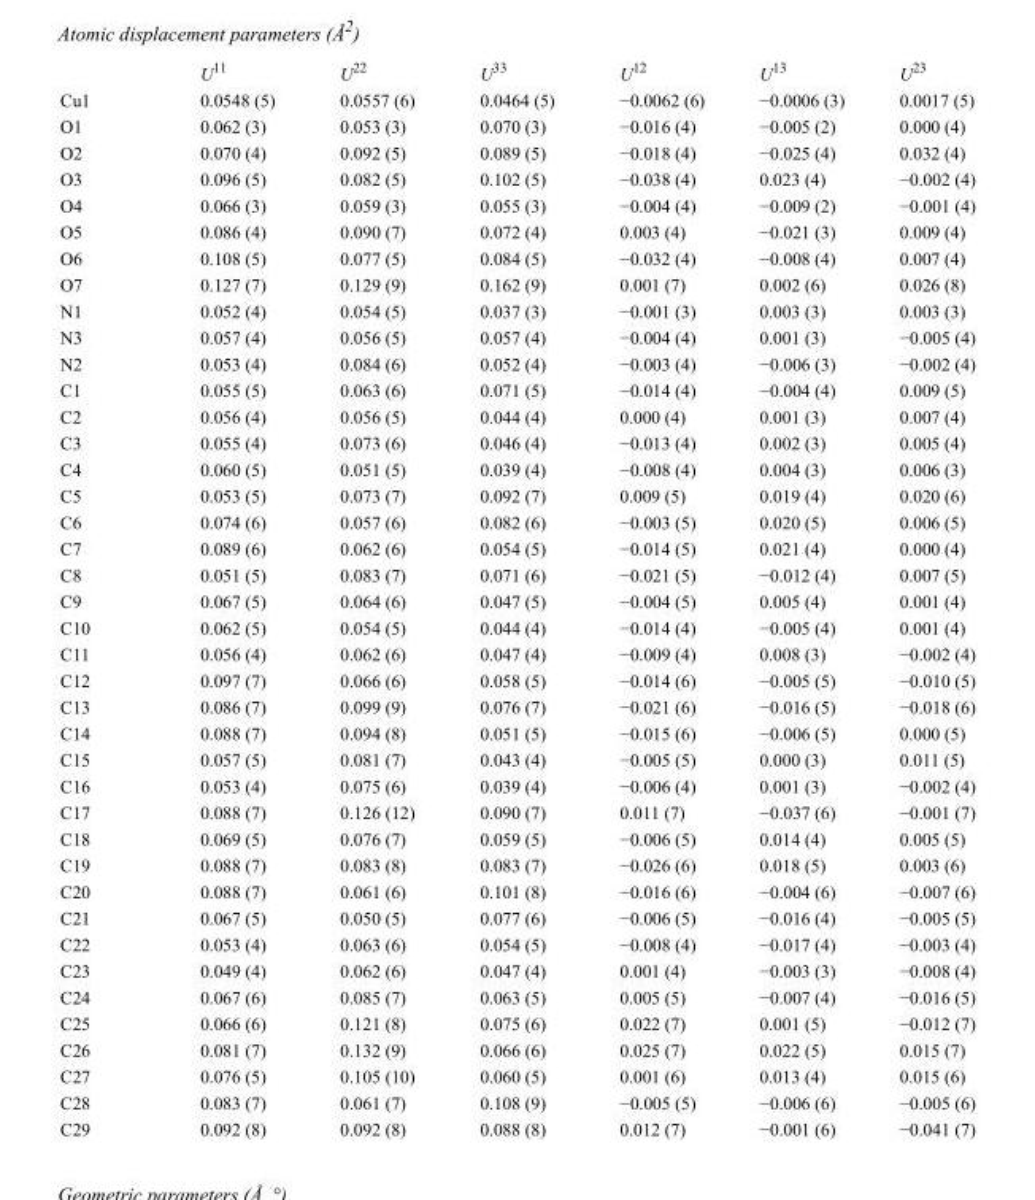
<table><thead><tr><td></td><td>U<sup>11</sup></td><td>U<sup>22</sup></td><td>U<sup>33</sup></td><td>U<sup>12</sup></td><td>U<sup>13</sup></td><td>U<sup>23</sup></td></tr></thead><tbody><tr><td>Cu1</td><td>0.0548 (5)</td><td>0.0557 (6)</td><td>0.0464 (5)</td><td>−0.0062 (6)</td><td>−0.0006 (3)</td><td>0.0017 (5)</td></tr><tr><td>O1</td><td>0.062 (3)</td><td>0.053 (3)</td><td>0.070 (3)</td><td>−0.016 (4)</td><td>−0.005 (2)</td><td>0.000 (4)</td></tr><tr><td>O2</td><td>0.070 (4)</td><td>0.092 (5)</td><td>0.089 (5)</td><td>−0.018 (4)</td><td>−0.025 (4)</td><td>0.032 (4)</td></tr><tr><td>O3</td><td>0.096 (5)</td><td>0.082 (5)</td><td>0.102 (5)</td><td>−0.038 (4)</td><td>0.023 (4)</td><td>−0.002 (4)</td></tr><tr><td>O4</td><td>0.066 (3)</td><td>0.059 (3)</td><td>0.055 (3)</td><td>−0.004 (4)</td><td>−0.009 (2)</td><td>−0.001 (4)</td></tr><tr><td>O5</td><td>0.086 (4)</td><td>0.090 (7)</td><td>0.072 (4)</td><td>0.003 (4)</td><td>−0.021 (3)</td><td>0.009 (4)</td></tr><tr><td>O6</td><td>0.108 (5)</td><td>0.077 (5)</td><td>0.084 (5)</td><td>−0.032 (4)</td><td>−0.008 (4)</td><td>0.007 (4)</td></tr><tr><td>O7</td><td>0.127 (7)</td><td>0.129 (9)</td><td>0.162 (9)</td><td>0.001 (7)</td><td>0.002 (6)</td><td>0.026 (8)</td></tr><tr><td>N1</td><td>0.052 (4)</td><td>0.054 (5)</td><td>0.037 (3)</td><td>−0.001 (3)</td><td>0.003 (3)</td><td>0.003 (3)</td></tr><tr><td>N3</td><td>0.057 (4)</td><td>0.056 (5)</td><td>0.057 (4)</td><td>−0.004 (4)</td><td>0.001 (3)</td><td>−0.005 (4)</td></tr><tr><td>N2</td><td>0.053 (4)</td><td>0.084 (6)</td><td>0.052 (4)</td><td>−0.003 (4)</td><td>−0.006 (3)</td><td>−0.002 (4)</td></tr><tr><td>C1</td><td>0.055 (5)</td><td>0.063 (6)</td><td>0.071 (5)</td><td>−0.014 (4)</td><td>−0.004 (4)</td><td>0.009 (5)</td></tr><tr><td>C2</td><td>0.056 (4)</td><td>0.056 (5)</td><td>0.044 (4)</td><td>0.000 (4)</td><td>0.001 (3)</td><td>0.007 (4)</td></tr><tr><td>C3</td><td>0.055 (4)</td><td>0.073 (6)</td><td>0.046 (4)</td><td>−0.013 (4)</td><td>0.002 (3)</td><td>0.005 (4)</td></tr><tr><td>C4</td><td>0.060 (5)</td><td>0.051 (5)</td><td>0.039 (4)</td><td>−0.008 (4)</td><td>0.004 (3)</td><td>0.006 (3)</td></tr><tr><td>C5</td><td>0.053 (5)</td><td>0.073 (7)</td><td>0.092 (7)</td><td>0.009 (5)</td><td>0.019 (4)</td><td>0.020 (6)</td></tr><tr><td>C6</td><td>0.074 (6)</td><td>0.057 (6)</td><td>0.082 (6)</td><td>−0.003 (5)</td><td>0.020 (5)</td><td>0.006 (5)</td></tr><tr><td>C7</td><td>0.089 (6)</td><td>0.062 (6)</td><td>0.054 (5)</td><td>−0.014 (5)</td><td>0.021 (4)</td><td>0.000 (4)</td></tr><tr><td>C8</td><td>0.051 (5)</td><td>0.083 (7)</td><td>0.071 (6)</td><td>−0.021 (5)</td><td>−0.012 (4)</td><td>0.007 (5)</td></tr><tr><td>C9</td><td>0.067 (5)</td><td>0.064 (6)</td><td>0.047 (5)</td><td>−0.004 (5)</td><td>0.005 (4)</td><td>0.001 (4)</td></tr><tr><td>C10</td><td>0.062 (5)</td><td>0.054 (5)</td><td>0.044 (4)</td><td>−0.014 (4)</td><td>−0.005 (4)</td><td>0.001 (4)</td></tr><tr><td>C11</td><td>0.056 (4)</td><td>0.062 (6)</td><td>0.047 (4)</td><td>−0.009 (4)</td><td>0.008 (3)</td><td>−0.002 (4)</td></tr><tr><td>C12</td><td>0.097 (7)</td><td>0.066 (6)</td><td>0.058 (5)</td><td>−0.014 (6)</td><td>−0.005 (5)</td><td>−0.010 (5)</td></tr><tr><td>C13</td><td>0.086 (7)</td><td>0.099 (9)</td><td>0.076 (7)</td><td>−0.021 (6)</td><td>−0.016 (5)</td><td>−0.018 (6)</td></tr><tr><td>C14</td><td>0.088 (7)</td><td>0.094 (8)</td><td>0.051 (5)</td><td>−0.015 (6)</td><td>−0.006 (5)</td><td>0.000 (5)</td></tr><tr><td>C15</td><td>0.057 (5)</td><td>0.081 (7)</td><td>0.043 (4)</td><td>−0.005 (5)</td><td>0.000 (3)</td><td>0.011 (5)</td></tr><tr><td>C16</td><td>0.053 (4)</td><td>0.075 (6)</td><td>0.039 (4)</td><td>−0.006 (4)</td><td>0.001 (3)</td><td>−0.002 (4)</td></tr><tr><td>C17</td><td>0.088 (7)</td><td>0.126 (12)</td><td>0.090 (7)</td><td>0.011 (7)</td><td>−0.037 (6)</td><td>−0.001 (7)</td></tr><tr><td>C18</td><td>0.069 (5)</td><td>0.076 (7)</td><td>0.059 (5)</td><td>−0.006 (5)</td><td>0.014 (4)</td><td>0.005 (5)</td></tr><tr><td>C19</td><td>0.088 (7)</td><td>0.083 (8)</td><td>0.083 (7)</td><td>−0.026 (6)</td><td>0.018 (5)</td><td>0.003 (6)</td></tr><tr><td>C20</td><td>0.088 (7)</td><td>0.061 (6)</td><td>0.101 (8)</td><td>−0.016 (6)</td><td>−0.004 (6)</td><td>−0.007 (6)</td></tr><tr><td>C21</td><td>0.067 (5)</td><td>0.050 (5)</td><td>0.077 (6)</td><td>−0.006 (5)</td><td>−0.016 (4)</td><td>−0.005 (5)</td></tr><tr><td>C22</td><td>0.053 (4)</td><td>0.063 (6)</td><td>0.054 (5)</td><td>−0.008 (4)</td><td>−0.017 (4)</td><td>−0.003 (4)</td></tr><tr><td>C23</td><td>0.049 (4)</td><td>0.062 (6)</td><td>0.047 (4)</td><td>0.001 (4)</td><td>−0.003 (3)</td><td>−0.008 (4)</td></tr><tr><td>C24</td><td>0.067 (6)</td><td>0.085 (7)</td><td>0.063 (5)</td><td>0.005 (5)</td><td>−0.007 (4)</td><td>−0.016 (5)</td></tr><tr><td>C25</td><td>0.066 (6)</td><td>0.121 (8)</td><td>0.075 (6)</td><td>0.022 (7)</td><td>0.001 (5)</td><td>−0.012 (7)</td></tr><tr><td>C26</td><td>0.081 (7)</td><td>0.132 (9)</td><td>0.066 (6)</td><td>0.025 (7)</td><td>0.022 (5)</td><td>0.015 (7)</td></tr><tr><td>C27</td><td>0.076 (5)</td><td>0.105 (10)</td><td>0.060 (5)</td><td>0.001 (6)</td><td>0.013 (4)</td><td>0.015 (6)</td></tr><tr><td>C28</td><td>0.083 (7)</td><td>0.061 (7)</td><td>0.108 (9)</td><td>−0.005 (5)</td><td>−0.006 (6)</td><td>−0.005 (6)</td></tr><tr><td>C29</td><td>0.092 (8)</td><td>0.092 (8)</td><td>0.088 (8)</td><td>0.012 (7)</td><td>−0.001 (6)</td><td>−0.041 (7)</td></tr></tbody></table>